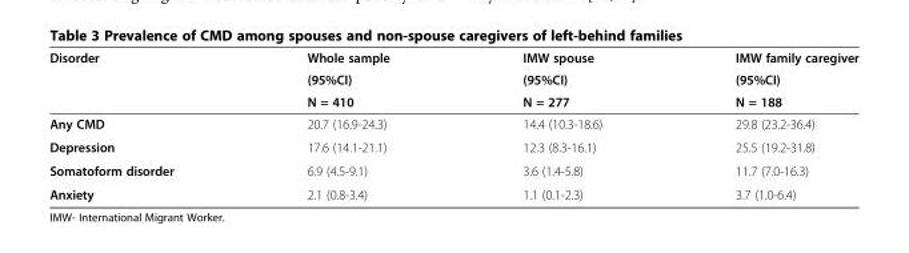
<table><thead><tr><td rowspan="3">Disorder</td><td rowspan="3">Whole sample (95%CI) N = 410</td><td rowspan="3">IMW spouse (95%CI) N = 277</td><td rowspan="3">IMW family caregiver (95%CI) N = 188</td></tr><tr></tr><tr></tr></thead><tbody><tr><td>Any CMD</td><td>20.7 (16.9-24.3)</td><td>14.4 (10.3-18.6)</td><td>29.8 (23.2-36.4)</td></tr><tr><td>Depression</td><td>17.6 (14.1-21.1)</td><td>12.3 (8.3-16.1)</td><td>25.5 (19.2-31.8)</td></tr><tr><td>Somatoform disorder</td><td>6.9 (4.5-9.1)</td><td>3.6 (1.4-5.8)</td><td>11.7 (7.0-16.3)</td></tr><tr><td>Anxiety</td><td>2.1 (0.8-3.4)</td><td>1.1 (0.1-2.3)</td><td>3.7 (1.0-6.4)</td></tr></tbody></table>